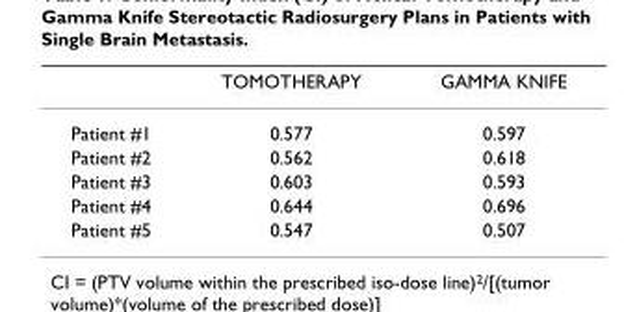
<table><thead><tr><td></td><td>TOMOTHERAPY</td><td>GAMMA KNIFE</td></tr></thead><tbody><tr><td>Patient #1</td><td>0.577</td><td>0.597</td></tr><tr><td>Patient #2</td><td>0.562</td><td>0.618</td></tr><tr><td>Patient #3</td><td>0.603</td><td>0.593</td></tr><tr><td>Patient #4</td><td>0.644</td><td>0.696</td></tr><tr><td>Patient #5</td><td>0.547</td><td>0.507</td></tr></tbody></table>